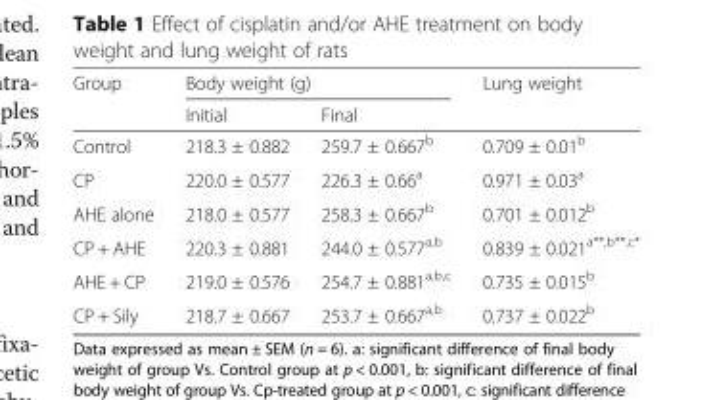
<table><thead><tr><td rowspan="2">Group</td><td colspan="2">Body weight (g)</td><td rowspan="2">Lung weight</td></tr><tr><td>Initial</td><td>Final</td></tr></thead><tbody><tr><td>Control</td><td>218.3 ± 0.882</td><td>259.7 ± 0.667<sup>b</sup></td><td>0.709 ± 0.01<sup>b</sup></td></tr><tr><td>CP</td><td>220.0 ± 0.577</td><td>226.3 ± 0.66<sup>a</sup></td><td>0.971 ± 0.03<sup>a</sup></td></tr><tr><td>AHE alone</td><td>218.0 ± 0.577</td><td>258.3 ± 0.667<sup>b</sup></td><td>0.701 ± 0.012<sup>b</sup></td></tr><tr><td>CP + AHE</td><td>220.3 ± 0.881</td><td>244.0 ± 0.577<sup>a,b</sup></td><td>0.839 ± 0.021<sup>a**,b**,c*</sup></td></tr><tr><td>AHE + CP</td><td>219.0 ± 0.576</td><td>254.7 ± 0.881<sup>a,b,c</sup></td><td>0.735 ± 0.015<sup>b</sup></td></tr><tr><td>CP + Sily</td><td>218.7 ± 0.667</td><td>253.7 ± 0.667<sup>a,b</sup></td><td>0.737 ± 0.022<sup>b</sup></td></tr></tbody></table>